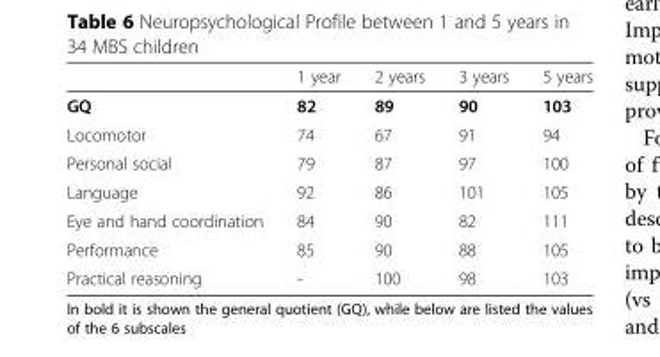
<table><thead><tr><td></td><td>1 year</td><td>2 years</td><td>3 years</td><td>5 years</td></tr></thead><tbody><tr><td>GQ</td><td>82</td><td>89</td><td>90</td><td>103</td></tr><tr><td>Locomotor</td><td>74</td><td>67</td><td>91</td><td>94</td></tr><tr><td>Personal social</td><td>79</td><td>87</td><td>97</td><td>100</td></tr><tr><td>Language</td><td>92</td><td>86</td><td>101</td><td>105</td></tr><tr><td>Eye and hand coordination</td><td>84</td><td>90</td><td>82</td><td>111</td></tr><tr><td>Performance</td><td>85</td><td>90</td><td>88</td><td>105</td></tr><tr><td>Practical reasoning</td><td>-</td><td>100</td><td>98</td><td>103</td></tr></tbody></table>